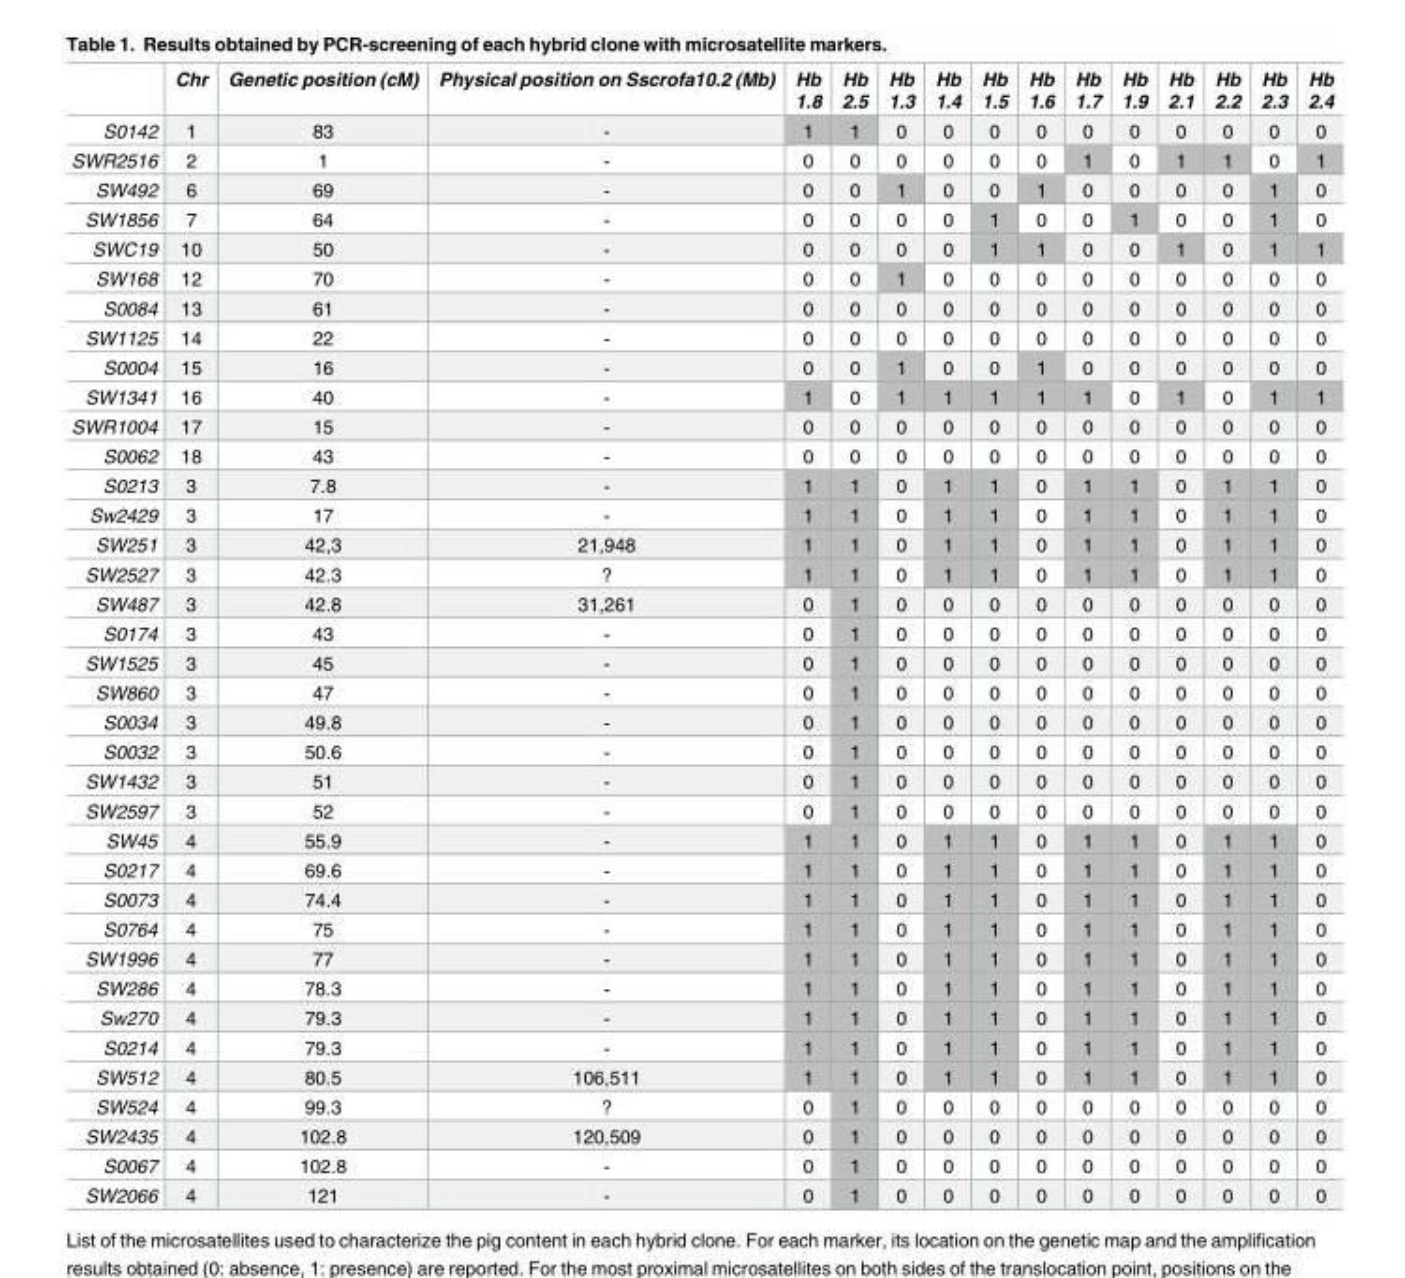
<table><thead><tr><td></td><td>Chr</td><td>Genetic position (cM)</td><td>Physical position on Sscrofa10.2 (Mb)</td><td>Hb 1.8</td><td>Hb 2.5</td><td>Hb 1.3</td><td>Hb 1.4</td><td>Hb 1.5</td><td>Hb 1.6</td><td>Hb 1.7</td><td>Hb 1.9</td><td>Hb 2.1</td><td>Hb 2.2</td><td>Hb 2.3</td><td>Hb 2.4</td></tr></thead><tbody><tr><td>S0142</td><td>1</td><td>83</td><td>-</td><td>1</td><td>1</td><td>0</td><td>0</td><td>0</td><td>0</td><td>0</td><td>0</td><td>0</td><td>0</td><td>0</td><td>0</td></tr><tr><td>SWR2516</td><td>2</td><td>1</td><td>-</td><td>0</td><td>0</td><td>0</td><td>0</td><td>0</td><td>0</td><td>1</td><td>0</td><td>1</td><td>1</td><td>0</td><td>1</td></tr><tr><td>SW492</td><td>6</td><td>69</td><td>-</td><td>0</td><td>0</td><td>1</td><td>0</td><td>0</td><td>1</td><td>0</td><td>0</td><td>0</td><td>0</td><td>1</td><td>0</td></tr><tr><td>SW1856</td><td>7</td><td>64</td><td>-</td><td>0</td><td>0</td><td>0</td><td>0</td><td>1</td><td>0</td><td>0</td><td>1</td><td>0</td><td>0</td><td>1</td><td>0</td></tr><tr><td>SWC19</td><td>10</td><td>50</td><td>-</td><td>0</td><td>0</td><td>0</td><td>0</td><td>1</td><td>1</td><td>0</td><td>0</td><td>1</td><td>0</td><td>1</td><td>1</td></tr><tr><td>SW168</td><td>12</td><td>70</td><td>-</td><td>0</td><td>0</td><td>1</td><td>0</td><td>0</td><td>0</td><td>0</td><td>0</td><td>0</td><td>0</td><td>0</td><td>0</td></tr><tr><td>S0084</td><td>13</td><td>61</td><td>-</td><td>0</td><td>0</td><td>0</td><td>0</td><td>0</td><td>0</td><td>0</td><td>0</td><td>0</td><td>0</td><td>0</td><td>0</td></tr><tr><td>SW1125</td><td>14</td><td>22</td><td>-</td><td>0</td><td>0</td><td>0</td><td>0</td><td>0</td><td>0</td><td>0</td><td>0</td><td>0</td><td>0</td><td>0</td><td>0</td></tr><tr><td>S0004</td><td>15</td><td>16</td><td>-</td><td>0</td><td>0</td><td>1</td><td>0</td><td>0</td><td>1</td><td>0</td><td>0</td><td>0</td><td>0</td><td>0</td><td>0</td></tr><tr><td>SW1341</td><td>16</td><td>40</td><td>-</td><td>1</td><td>0</td><td>1</td><td>1</td><td>1</td><td>1</td><td>1</td><td>0</td><td>1</td><td>0</td><td>1</td><td>1</td></tr><tr><td>SWR1004</td><td>17</td><td>15</td><td>-</td><td>0</td><td>0</td><td>0</td><td>0</td><td>0</td><td>0</td><td>0</td><td>0</td><td>0</td><td>0</td><td>0</td><td>0</td></tr><tr><td>S0062</td><td>18</td><td>43</td><td>-</td><td>0</td><td>0</td><td>0</td><td>0</td><td>0</td><td>0</td><td>0</td><td>0</td><td>0</td><td>0</td><td>0</td><td>0</td></tr><tr><td>S0213</td><td>3</td><td>7.8</td><td>-</td><td>1</td><td>1</td><td>0</td><td>1</td><td>1</td><td>0</td><td>1</td><td>1</td><td>0</td><td>1</td><td>1</td><td>0</td></tr><tr><td>Sw2429</td><td>3</td><td>17</td><td>-</td><td>1</td><td>1</td><td>0</td><td>1</td><td>1</td><td>0</td><td>1</td><td>1</td><td>0</td><td>1</td><td>1</td><td>0</td></tr><tr><td>SW251</td><td>3</td><td>42,3</td><td>21,948</td><td>1</td><td>1</td><td>0</td><td>1</td><td>1</td><td>0</td><td>1</td><td>1</td><td>0</td><td>1</td><td>1</td><td>0</td></tr><tr><td>SW2527</td><td>3</td><td>42.3</td><td>?</td><td>1</td><td>1</td><td>0</td><td>1</td><td>1</td><td>0</td><td>1</td><td>1</td><td>0</td><td>1</td><td>1</td><td>0</td></tr><tr><td>SW487</td><td>3</td><td>42.8</td><td>31,261</td><td>0</td><td>1</td><td>0</td><td>0</td><td>0</td><td>0</td><td>0</td><td>0</td><td>0</td><td>0</td><td>0</td><td>0</td></tr><tr><td>S0174</td><td>3</td><td>43</td><td>-</td><td>0</td><td>1</td><td>0</td><td>0</td><td>0</td><td>0</td><td>0</td><td>0</td><td>0</td><td>0</td><td>0</td><td>0</td></tr><tr><td>SW1525</td><td>3</td><td>45</td><td>-</td><td>0</td><td>1</td><td>0</td><td>0</td><td>0</td><td>0</td><td>0</td><td>0</td><td>0</td><td>0</td><td>0</td><td>0</td></tr><tr><td>SW860</td><td>3</td><td>47</td><td>-</td><td>0</td><td>1</td><td>0</td><td>0</td><td>0</td><td>0</td><td>0</td><td>0</td><td>0</td><td>0</td><td>0</td><td>0</td></tr><tr><td>S0034</td><td>3</td><td>49.8</td><td>-</td><td>0</td><td>1</td><td>0</td><td>0</td><td>0</td><td>0</td><td>0</td><td>0</td><td>0</td><td>0</td><td>0</td><td>0</td></tr><tr><td>S0032</td><td>3</td><td>50.6</td><td>-</td><td>0</td><td>1</td><td>0</td><td>0</td><td>0</td><td>0</td><td>0</td><td>0</td><td>0</td><td>0</td><td>0</td><td>0</td></tr><tr><td>SW1432</td><td>3</td><td>51</td><td>-</td><td>0</td><td>1</td><td>0</td><td>0</td><td>0</td><td>0</td><td>0</td><td>0</td><td>0</td><td>0</td><td>0</td><td>0</td></tr><tr><td>SW2597</td><td>3</td><td>52</td><td>-</td><td>0</td><td>1</td><td>0</td><td>0</td><td>0</td><td>0</td><td>0</td><td>0</td><td>0</td><td>0</td><td>0</td><td>0</td></tr><tr><td>SW45</td><td>4</td><td>55.9</td><td>-</td><td>1</td><td>1</td><td>0</td><td>1</td><td>1</td><td>0</td><td>1</td><td>1</td><td>0</td><td>1</td><td>1</td><td>0</td></tr><tr><td>S0217</td><td>4</td><td>69.6</td><td>-</td><td>1</td><td>1</td><td>0</td><td>1</td><td>1</td><td>0</td><td>1</td><td>1</td><td>0</td><td>1</td><td>1</td><td>0</td></tr><tr><td>S0073</td><td>4</td><td>74.4</td><td>-</td><td>1</td><td>1</td><td>0</td><td>1</td><td>1</td><td>0</td><td>1</td><td>1</td><td>0</td><td>1</td><td>1</td><td>0</td></tr><tr><td>S0764</td><td>4</td><td>75</td><td>-</td><td>1</td><td>1</td><td>0</td><td>1</td><td>1</td><td>0</td><td>1</td><td>1</td><td>0</td><td>1</td><td>1</td><td>0</td></tr><tr><td>SW1996</td><td>4</td><td>77</td><td>-</td><td>1</td><td>1</td><td>0</td><td>1</td><td>1</td><td>0</td><td>1</td><td>1</td><td>0</td><td>1</td><td>1</td><td>0</td></tr><tr><td>SW286</td><td>4</td><td>78.3</td><td>-</td><td>1</td><td>1</td><td>0</td><td>1</td><td>1</td><td>0</td><td>1</td><td>1</td><td>0</td><td>1</td><td>1</td><td>0</td></tr><tr><td>Sw270</td><td>4</td><td>79.3</td><td>-</td><td>1</td><td>1</td><td>0</td><td>1</td><td>1</td><td>0</td><td>1</td><td>1</td><td>0</td><td>1</td><td>1</td><td>0</td></tr><tr><td>S0214</td><td>4</td><td>79.3</td><td>-</td><td>1</td><td>1</td><td>0</td><td>1</td><td>1</td><td>0</td><td>1</td><td>1</td><td>0</td><td>1</td><td>1</td><td>0</td></tr><tr><td>SW512</td><td>4</td><td>80.5</td><td>106,511</td><td>1</td><td>1</td><td>0</td><td>1</td><td>1</td><td>0</td><td>1</td><td>1</td><td>0</td><td>1</td><td>1</td><td>0</td></tr><tr><td>SW524</td><td>4</td><td>99.3</td><td>?</td><td>0</td><td>1</td><td>0</td><td>0</td><td>0</td><td>0</td><td>0</td><td>0</td><td>0</td><td>0</td><td>0</td><td>0</td></tr><tr><td>SW2435</td><td>4</td><td>102.8</td><td>120,509</td><td>0</td><td>1</td><td>0</td><td>0</td><td>0</td><td>0</td><td>0</td><td>0</td><td>0</td><td>0</td><td>0</td><td>0</td></tr><tr><td>S0067</td><td>4</td><td>102.8</td><td>-</td><td>0</td><td>1</td><td>0</td><td>0</td><td>0</td><td>0</td><td>0</td><td>0</td><td>0</td><td>0</td><td>0</td><td>0</td></tr><tr><td>SW2066</td><td>4</td><td>121</td><td>-</td><td>0</td><td>1</td><td>0</td><td>0</td><td>0</td><td>0</td><td>0</td><td>0</td><td>0</td><td>0</td><td>0</td><td>0</td></tr></tbody></table>